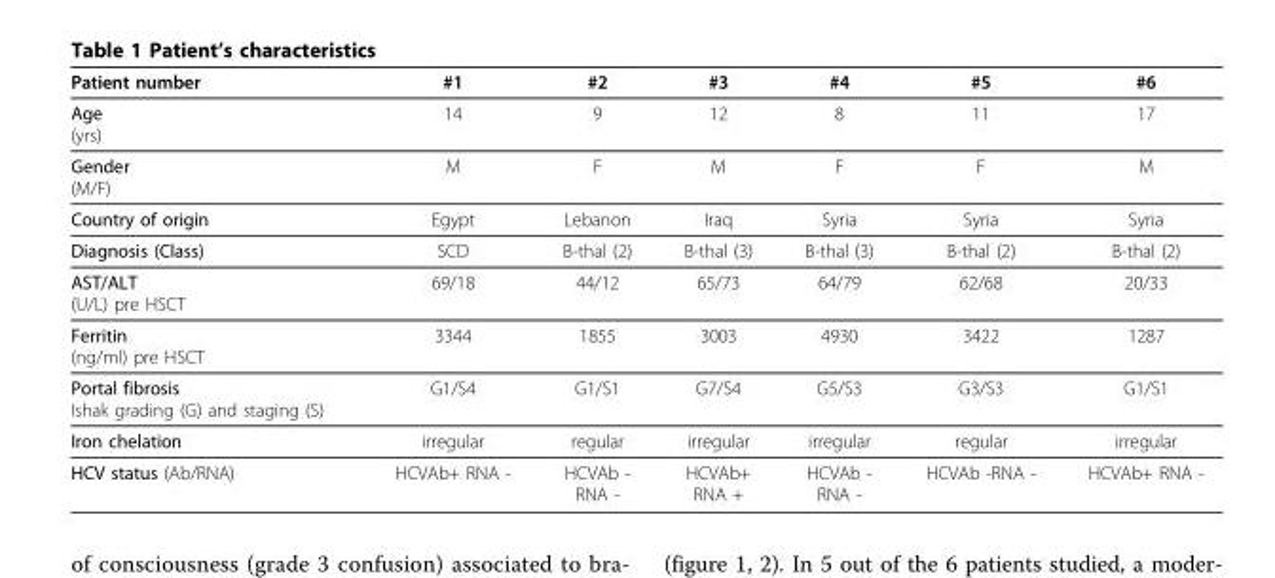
<table><thead><tr><td>Patient number</td><td>#1</td><td>#2</td><td>#3</td><td>#4</td><td>#5</td><td>#6</td></tr></thead><tbody><tr><td>Age (yrs)</td><td>14</td><td>9</td><td>12</td><td>8</td><td>11</td><td>17</td></tr><tr><td>Gender (M/F)</td><td>M</td><td>F</td><td>M</td><td>F</td><td>F</td><td>M</td></tr><tr><td>Country of origin</td><td>Egypt</td><td>Lebanon</td><td>Iraq</td><td>Syria</td><td>Syria</td><td>Syria</td></tr><tr><td>Diagnosis (Class)</td><td>SCD</td><td>B-thal (2)</td><td>B-thal (3)</td><td>B-thal (3)</td><td>B-thal (2)</td><td>B-thal (2)</td></tr><tr><td>AST/ALT (U/L) pre HSCT</td><td>69/18</td><td>44/12</td><td>65/73</td><td>64/79</td><td>62/68</td><td>20/33</td></tr><tr><td>Ferritin (ng/ml) pre HSCT</td><td>3344</td><td>1855</td><td>3003</td><td>4930</td><td>3422</td><td>1287</td></tr><tr><td>Portal fibrosis Ishak grading (G) and staging (S)</td><td>G1/S4</td><td>G1/S1</td><td>G7/S4</td><td>G5/S3</td><td>G3/S3</td><td>G1/S1</td></tr><tr><td>Iron chelation</td><td>irregular</td><td>regular</td><td>irregular</td><td>irregular</td><td>regular</td><td>irregular</td></tr><tr><td>HCV status (Ab/RNA)</td><td>HCVAb+ RNA -</td><td>HCVAb - RNA -</td><td>HCVAb+ RNA +</td><td>HCVAb - RNA -</td><td>HCVAb -RNA -</td><td>HCVAb+ RNA -</td></tr></tbody></table>